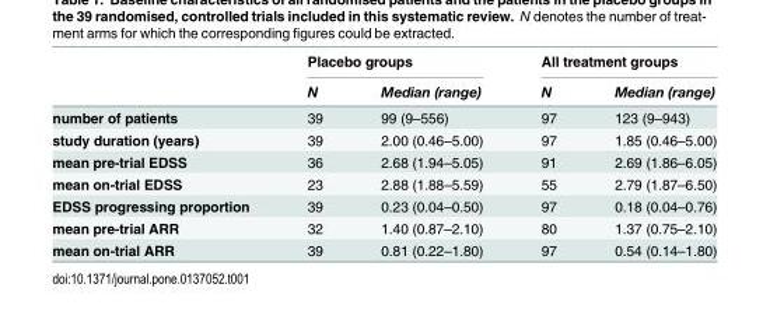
<table><thead><tr><td rowspan="2"></td><td colspan="2">Placebo groups</td><td colspan="2">All treatment groups</td></tr><tr><td>N</td><td>Median (range)</td><td>N</td><td>Median (range)</td></tr></thead><tbody><tr><td>number of patients</td><td>39</td><td>99 (9–556)</td><td>97</td><td>123 (9–943)</td></tr><tr><td>study duration (years)</td><td>39</td><td>2.00 (0.46–5.00)</td><td>97</td><td>1.85 (0.46–5.00)</td></tr><tr><td>mean pre-trial EDSS</td><td>36</td><td>2.68 (1.94–5.05)</td><td>91</td><td>2.69 (1.86–6.05)</td></tr><tr><td>mean on-trial EDSS</td><td>23</td><td>2.88 (1.88–5.59)</td><td>55</td><td>2.79 (1.87–6.50)</td></tr><tr><td>EDSS progressing proportion</td><td>39</td><td>0.23 (0.04–0.50)</td><td>97</td><td>0.18 (0.04–0.76)</td></tr><tr><td>mean pre-trial ARR</td><td>32</td><td>1.40 (0.87–2.10)</td><td>80</td><td>1.37 (0.75–2.10)</td></tr><tr><td>mean on-trial ARR</td><td>39</td><td>0.81 (0.22–1.80)</td><td>97</td><td>0.54 (0.14–1.80)</td></tr></tbody></table>